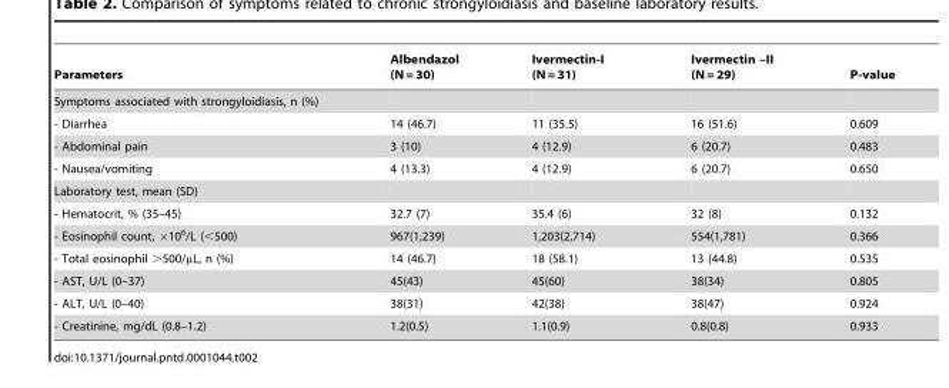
<table><thead><tr><td>Parameters</td><td>Albendazol (N = 30)</td><td>Ivermectin-I (N = 31)</td><td>Ivermectin –II (N = 29)</td><td>P-value</td></tr></thead><tbody><tr><td colspan="5">Symptoms associated with strongyloidiasis, n (%)</td></tr><tr><td>- Diarrhea</td><td>14 (46.7)</td><td>11 (35.5)</td><td>16 (51.6)</td><td>0.609</td></tr><tr><td>- Abdominal pain</td><td>3 (10)</td><td>4 (12.9)</td><td>6 (20.7)</td><td>0.483</td></tr><tr><td>- Nausea/vomiting</td><td>4 (13.3)</td><td>4 (12.9)</td><td>6 (20.7)</td><td>0.650</td></tr><tr><td colspan="5">Laboratory test, mean (SD)</td></tr><tr><td>- Hematocrit, % (35–45)</td><td>32.7 (7)</td><td>35.4 (6)</td><td>32 (8)</td><td>0.132</td></tr><tr><td>- Eosinophil count, ×10<sup>6</sup>/L (&lt;500)</td><td>967(1,239)</td><td>1,203(2,714)</td><td>554(1,781)</td><td>0.366</td></tr><tr><td>- Total eosinophil &gt;500/µL, n (%)</td><td>14 (46.7)</td><td>18 (58.1)</td><td>13 (44.8)</td><td>0.535</td></tr><tr><td>- AST, U/L (0–37)</td><td>45(43)</td><td>45(60)</td><td>38(34)</td><td>0.805</td></tr><tr><td>- ALT, U/L (0–40)</td><td>38(31)</td><td>42(38)</td><td>38(47)</td><td>0.924</td></tr><tr><td>- Creatinine, mg/dL (0.8–1.2)</td><td>1.2(0.5)</td><td>1.1(0.9)</td><td>0.8(0.8)</td><td>0.933</td></tr></tbody></table>